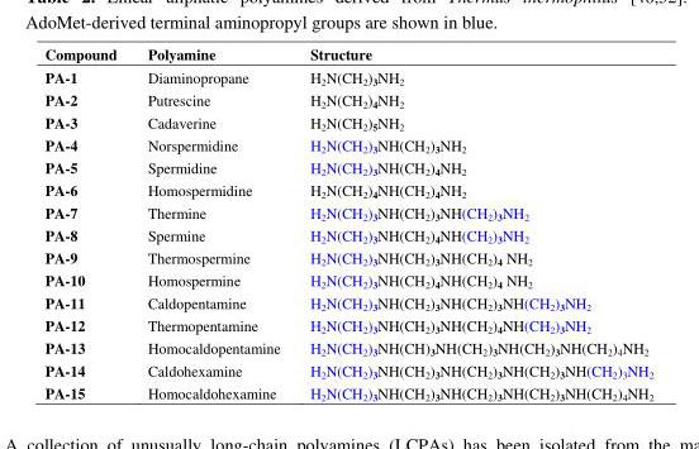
<table><thead><tr><td>Compound</td><td>Polyamine</td><td>Structure</td></tr></thead><tbody><tr><td>PA-1</td><td>Diaminopropane</td><td>H<sub>2</sub>N(CH<sub>2</sub>)<sub>3</sub>NH<sub>2</sub></td></tr><tr><td>PA-2</td><td>Putrescine</td><td>H<sub>2</sub>N(CH<sub>2</sub>)<sub>4</sub>NH<sub>2</sub></td></tr><tr><td>PA-3</td><td>Cadaverine</td><td>H<sub>2</sub>N(CH<sub>2</sub>)<sub>5</sub>NH<sub>2</sub></td></tr><tr><td>PA-4</td><td>Norspermidine</td><td>H<sub>2</sub>N(CH<sub>2</sub>)<sub>3</sub>NH(CH<sub>2</sub>)<sub>3</sub>NH<sub>2</sub></td></tr><tr><td>PA-5</td><td>Spermidine</td><td>H<sub>2</sub>N(CH<sub>2</sub>)<sub>3</sub>NH(CH<sub>2</sub>)<sub>4</sub>NH<sub>2</sub></td></tr><tr><td>PA-6</td><td>Homospermidine</td><td>H<sub>2</sub>N(CH<sub>2</sub>)<sub>4</sub>NH(CH<sub>2</sub>)<sub>4</sub>NH<sub>2</sub></td></tr><tr><td>PA-7</td><td>Thermine</td><td>H<sub>2</sub>N(CH<sub>2</sub>)<sub>3</sub>NH(CH<sub>2</sub>)<sub>3</sub>NH(CH<sub>2</sub>)<sub>3</sub>NH<sub>2</sub></td></tr><tr><td>PA-8</td><td>Spermine</td><td>H<sub>2</sub>N(CH<sub>2</sub>)<sub>3</sub>NH(CH<sub>2</sub>)<sub>4</sub>NH(CH<sub>2</sub>)<sub>3</sub>NH<sub>2</sub></td></tr><tr><td>PA-9</td><td>Thermospermine</td><td>H<sub>2</sub>N(CH<sub>2</sub>)<sub>3</sub>NH(CH<sub>2</sub>)<sub>3</sub>NH(CH<sub>2</sub>)<sub>4</sub> NH<sub>2</sub></td></tr><tr><td>PA-10</td><td>Homospermine</td><td>H<sub>2</sub>N(CH<sub>2</sub>)<sub>3</sub>NH(CH<sub>2</sub>)<sub>4</sub>NH(CH<sub>2</sub>)<sub>4</sub> NH<sub>2</sub></td></tr><tr><td>PA-11</td><td>Caldopentamine</td><td>H<sub>2</sub>N(CH<sub>2</sub>)<sub>3</sub>NH(CH<sub>2</sub>)<sub>3</sub>NH(CH<sub>2</sub>)<sub>3</sub>NH(CH<sub>2</sub>)<sub>3</sub>NH<sub>2</sub></td></tr><tr><td>PA-12</td><td>Thermopentamine</td><td>H<sub>2</sub>N(CH<sub>2</sub>)<sub>3</sub>NH(CH<sub>2</sub>)<sub>3</sub>NH(CH<sub>2</sub>)<sub>4</sub>NH(CH<sub>2</sub>)<sub>3</sub>NH<sub>2</sub></td></tr><tr><td>PA-13</td><td>Homocaldopentamine</td><td>H<sub>2</sub>N(CH<sub>2</sub>)<sub>3</sub>NH(CH)<sub>3</sub>NH(CH<sub>2</sub>)<sub>3</sub>NH(CH<sub>2</sub>)<sub>3</sub>NH(CH<sub>2</sub>)<sub>4</sub>NH<sub>2</sub></td></tr><tr><td>PA-14</td><td>Caldohexamine</td><td>H<sub>2</sub>N(CH<sub>2</sub>)<sub>3</sub>NH(CH<sub>2</sub>)<sub>3</sub>NH(CH<sub>2</sub>)<sub>3</sub>NH(CH<sub>2</sub>)<sub>3</sub>NH(CH<sub>2</sub>)<sub>3</sub>NH<sub>2</sub></td></tr><tr><td>PA-15</td><td>Homocaldohexamine</td><td>H<sub>2</sub>N(CH<sub>2</sub>)<sub>3</sub>NH(CH<sub>2</sub>)<sub>3</sub>NH(CH<sub>2</sub>)<sub>3</sub>NH(CH<sub>2</sub>)<sub>3</sub>NH(CH<sub>2</sub>)<sub>4</sub>NH<sub>2</sub></td></tr></tbody></table>